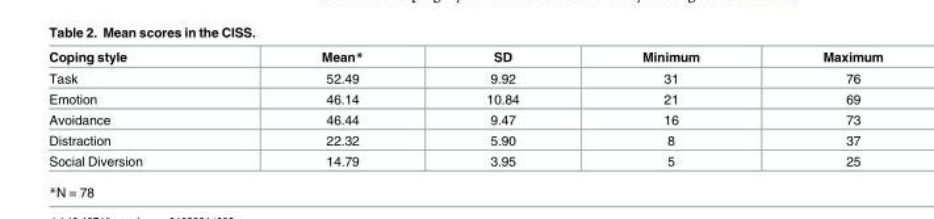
<table><thead><tr><td>Coping style</td><td>Mean*</td><td>SD</td><td>Minimum</td><td>Maximum</td></tr></thead><tbody><tr><td>Task</td><td>52.49</td><td>9.92</td><td>31</td><td>76</td></tr><tr><td>Emotion</td><td>46.14</td><td>10.84</td><td>21</td><td>69</td></tr><tr><td>Avoidance</td><td>46.44</td><td>9.47</td><td>16</td><td>73</td></tr><tr><td>Distraction</td><td>22.32</td><td>5.90</td><td>8</td><td>37</td></tr><tr><td>Social Diversion</td><td>14.79</td><td>3.95</td><td>5</td><td>25</td></tr></tbody></table>